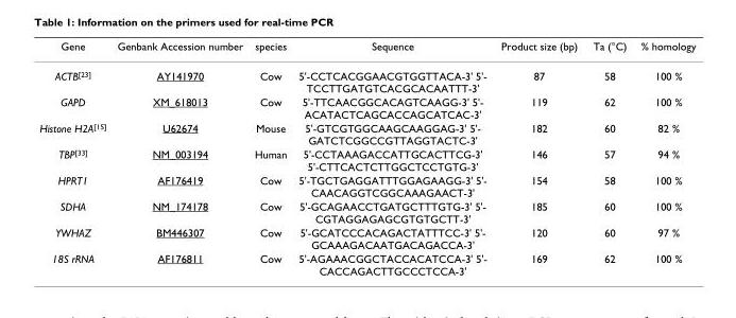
<table><thead><tr><td>Gene</td><td>Genbank Accession number</td><td>species</td><td>Sequence</td><td>Product size (bp)</td><td>Ta (°C)</td><td>% homology</td></tr></thead><tbody><tr><td>ACTB<sup>[23]</sup></td><td>AY141970</td><td>Cow</td><td>5&#x27;-CCTCACGGAACGTGGTTACA-3&#x27; 5&#x27;- TCCTTGATGTCACGCACAATTT-3&#x27;</td><td>87</td><td>58</td><td>100 %</td></tr><tr><td>GAPD</td><td>XM_618013</td><td>Cow</td><td>5&#x27;-TTCAACGGCACAGTCAAGG-3&#x27; 5&#x27;- ACATACTCAGCACCAGCATCAC-3&#x27;</td><td>119</td><td>62</td><td>100 %</td></tr><tr><td>Histone H2A<sup>[15]</sup></td><td>U62674</td><td>Mouse</td><td>5&#x27;-GTCGTGGCAAGCAAGGAG-3&#x27; 5&#x27;- GATCTCGGCCGTTAGGTACTC-3&#x27;</td><td>182</td><td>60</td><td>82 %</td></tr><tr><td>TBP<sup>[33]</sup></td><td>NM_003194</td><td>Human</td><td>5&#x27;-CCTAAAGACCATTGCACTTCG-3&#x27; 5&#x27;-CTTCACTCTTGGCTCCTGTG-3&#x27;</td><td>146</td><td>57</td><td>94 %</td></tr><tr><td>HPRT1</td><td>AF176419</td><td>Cow</td><td>5&#x27;-TGCTGAGGATTTGGAGAAGG-3&#x27; 5&#x27;- CAACAGGTCGGCAAAGAACT-3&#x27;</td><td>154</td><td>58</td><td>100 %</td></tr><tr><td>SDHA</td><td>NM_174178</td><td>Cow</td><td>5&#x27;-GCAGAACCTGATGCTTTGTG-3&#x27; 5&#x27;- CGTAGGAGAGCGTGTGCTT-3&#x27;</td><td>185</td><td>60</td><td>100 %</td></tr><tr><td>YWHAZ</td><td>BM446307</td><td>Cow</td><td>5&#x27;-GCATCCCACAGACTATTTCC-3&#x27; 5&#x27;- GCAAAGACAATGACAGACCA-3&#x27;</td><td>120</td><td>60</td><td>97 %</td></tr><tr><td>18S rRNA</td><td>AF176811</td><td>Cow</td><td>5&#x27;-AGAAACGGCTACCACATCCA-3&#x27; 5&#x27;- CACCAGACTTGCCCTCCA-3&#x27;</td><td>169</td><td>62</td><td>100 %</td></tr></tbody></table>